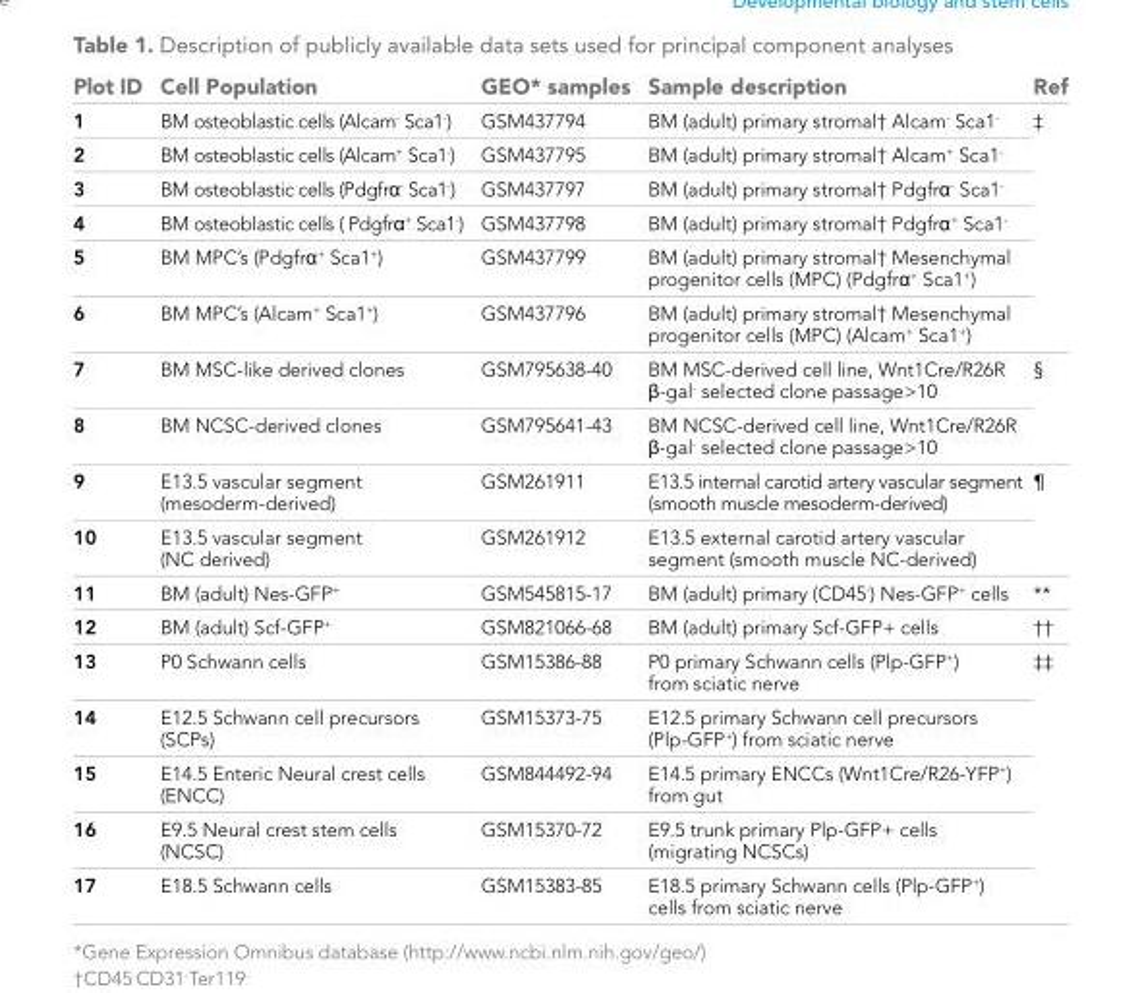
<table><thead><tr><td>Plot ID</td><td>Cell Population</td><td>GEO* samples</td><td>Sample description</td><td>Ref</td></tr></thead><tbody><tr><td>1</td><td>BM osteoblastic cells (Alcam<sup>-</sup> Sca1<sup>-</sup>)</td><td>GSM437794</td><td>BM (adult) primary stromal† Alcam<sup>-</sup> Sca1<sup>-</sup></td><td rowspan="6">‡</td></tr><tr><td>2</td><td>BM osteoblastic cells (Alcam<sup>+</sup> Sca1<sup>-</sup>)</td><td>GSM437795</td><td>BM (adult) primary stromal† Alcam<sup>+</sup> Sca1<sup>-</sup></td></tr><tr><td>3</td><td>BM osteoblastic cells (Pdgfrα<sup>-</sup> Sca1<sup>-</sup>)</td><td>GSM437797</td><td>BM (adult) primary stromal† Pdgfrα<sup>-</sup> Sca1<sup>-</sup></td></tr><tr><td>4</td><td>BM osteoblastic cells ( Pdgfrα<sup>+</sup> Sca1<sup>-</sup>)</td><td>GSM437798</td><td>BM (adult) primary stromal† Pdgfrα<sup>+</sup> Sca1<sup>-</sup></td></tr><tr><td>5</td><td>BM MPC’s (Pdgfrα<sup>+</sup> Sca1<sup>+</sup>)</td><td>GSM437799</td><td>BM (adult) primary stromal† Mesenchymal progenitor cells (MPC) (Pdgfrα<sup>+</sup> Sca1<sup>+</sup>)</td></tr><tr><td>6</td><td>BM MPC’s (Alcam<sup>+</sup> Sca1<sup>+</sup>)</td><td>GSM437796</td><td>BM (adult) primary stromal† Mesenchymal progenitor cells (MPC) (Alcam<sup>+</sup> Sca1<sup>+</sup>)</td></tr><tr><td>7</td><td>BM MSC-like derived clones</td><td>GSM795638-40</td><td>BM MSC-derived cell line, Wnt1Cre/R26R β-gal<sup>-</sup> selected clone passage&gt;10</td><td rowspan="2">§</td></tr><tr><td>8</td><td>BM NCSC-derived clones</td><td>GSM795641-43</td><td>BM NCSC-derived cell line, Wnt1Cre/R26R β-gal<sup>-</sup> selected clone passage&gt;10</td></tr><tr><td>9</td><td>E13.5 vascular segment (mesoderm-derived)</td><td>GSM261911</td><td>E13.5 internal carotid artery vascular segment (smooth muscle mesoderm-derived)</td><td rowspan="2">¶</td></tr><tr><td>10</td><td>E13.5 vascular segment (NC derived)</td><td>GSM261912</td><td>E13.5 external carotid artery vascular segment (smooth muscle NC-derived)</td></tr><tr><td>11</td><td>BM (adult) Nes-GFP<sup>+</sup></td><td>GSM545815-17</td><td>BM (adult) primary (CD45<sup>-</sup>) Nes-GFP<sup>+</sup> cells</td><td>**</td></tr><tr><td>12</td><td>BM (adult) Scf-GFP<sup>+</sup></td><td>GSM821066-68</td><td>BM (adult) primary Scf-GFP+ cells</td><td>††</td></tr><tr><td>13</td><td>P0 Schwann cells</td><td>GSM15386-88</td><td>P0 primary Schwann cells (Plp-GFP<sup>+</sup>) from sciatic nerve</td><td rowspan="5">‡‡</td></tr><tr><td>14</td><td>E12.5 Schwann cell precursors (SCPs)</td><td>GSM15373-75</td><td>E12.5 primary Schwann cell precursors (Plp-GFP<sup>+</sup>) from sciatic nerve</td></tr><tr><td>15</td><td>E14.5 Enteric Neural crest cells (ENCC)</td><td>GSM844492-94</td><td>E14.5 primary ENCCs (Wnt1Cre/R26-YFP<sup>+</sup>) from gut</td></tr><tr><td>16</td><td>E9.5 Neural crest stem cells (NCSC)</td><td>GSM15370-72</td><td>E9.5 trunk primary Plp-GFP+ cells (migrating NCSCs)</td></tr><tr><td>17</td><td>E18.5 Schwann cells</td><td>GSM15383-85</td><td>E18.5 primary Schwann cells (Plp-GFP<sup>+</sup>) cells from sciatic nerve</td></tr></tbody></table>